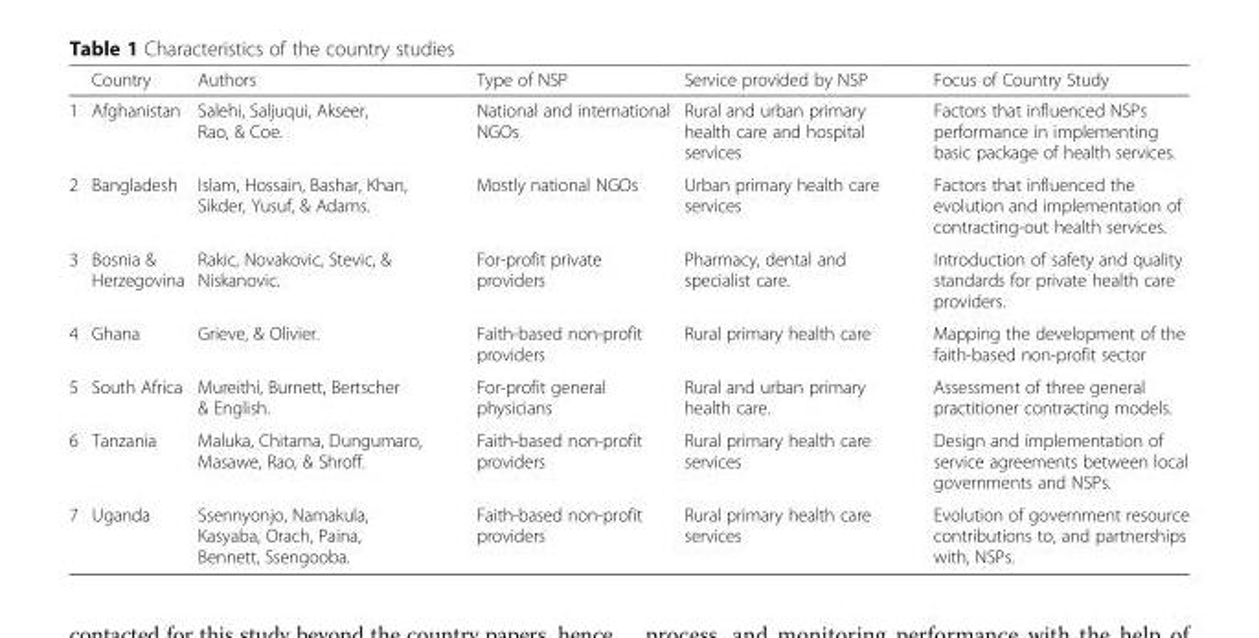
<table><thead><tr><td></td><td>Country</td><td>Authors</td><td>Type of NSP</td><td>Service provided by NSP</td><td>Focus of Country Study</td></tr></thead><tbody><tr><td>1</td><td>Afghanistan</td><td>Salehi, Saljuqui, Akseer, Rao, &amp; Coe.</td><td>National and international NGOs</td><td>Rural and urban primary health care and hospital services</td><td>Factors that influenced NSPs performance in implementing basic package of health services.</td></tr><tr><td>2</td><td>Bangladesh</td><td>Islam, Hossain, Bashar, Khan, Sikder, Yusuf, &amp; Adams.</td><td>Mostly national NGOs</td><td>Urban primary health care services</td><td>Factors that influenced the evolution and implementation of contracting-out health services.</td></tr><tr><td>3</td><td>Bosnia &amp; Herzegovina</td><td>Rakic, Novakovic, Stevic, &amp; Niskanovic.</td><td>For-profit private providers</td><td>Pharmacy, dental and specialist care.</td><td>Introduction of safety and quality standards for private health care providers.</td></tr><tr><td>4</td><td>Ghana</td><td>Grieve, &amp; Olivier.</td><td>Faith-based non-profit providers</td><td>Rural primary health care</td><td>Mapping the development of the faith-based non-profit sector</td></tr><tr><td>5</td><td>South Africa</td><td>Mureithi, Burnett, Bertscher &amp; English.</td><td>For-profit general physicians</td><td>Rural and urban primary health care.</td><td>Assessment of three general practitioner contracting models.</td></tr><tr><td>6</td><td>Tanzania</td><td>Maluka, Chitama, Dungumaro, Masawe, Rao, &amp; Shroff.</td><td>Faith-based non-profit providers</td><td>Rural primary health care services</td><td>Design and implementation of service agreements between local governments and NSPs.</td></tr><tr><td>7</td><td>Uganda</td><td>Ssennyonjo, Namakula, Kasyaba, Orach, Paina, Bennett, Ssengooba.</td><td>Faith-based non-profit providers</td><td>Rural primary health care services</td><td>Evolution of government resource contributions to, and partnerships with, NSPs.</td></tr></tbody></table>